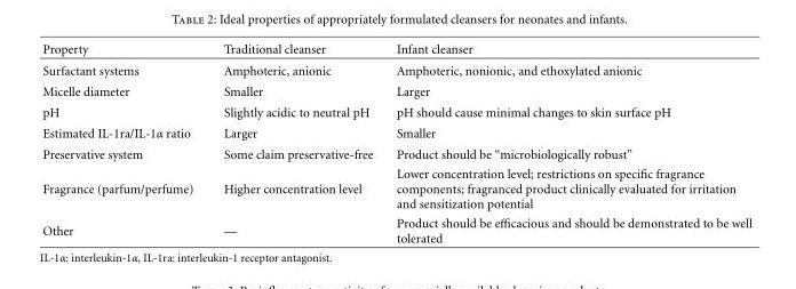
<table><thead><tr><td>Property</td><td>Traditional cleanser</td><td>Infant cleanser</td></tr></thead><tbody><tr><td>Surfactant systems</td><td>Amphoteric, anionic</td><td>Amphoteric, nonionic, and ethoxylated anionic</td></tr><tr><td>Micelle diameter</td><td>Smaller</td><td>Larger</td></tr><tr><td>pH</td><td>Slightly acidic to neutral pH</td><td>pH should cause minimal changes to skin surface pH</td></tr><tr><td>Estimated IL-1ra/IL-1α ratio</td><td>Larger</td><td>Smaller</td></tr><tr><td>Preservative system</td><td>Some claim preservative-free</td><td>Product should be “microbiologically robust”</td></tr><tr><td>Fragrance (parfum/perfume)</td><td>Higher concentration level</td><td>Lower concentration level; restrictions on specific fragrance components; fragranced product clinically evaluated for irritation and sensitization potential</td></tr><tr><td>Other</td><td>—</td><td>Product should be efficacious and should be demonstrated to be well tolerated</td></tr></tbody></table>